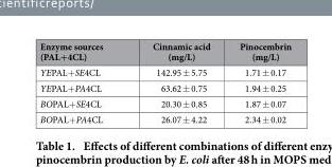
<table><thead><tr><td>Enzyme sources (PAL+4CL)</td><td>Cinnamic acid (mg/L)</td><td>Pinocembrin (mg/L)</td></tr></thead><tbody><tr><td>YEPAL+ SE4CL</td><td>142.95 ± 5.75</td><td>1.71 ± 0.17</td></tr><tr><td>YEPAL+ PA4CL</td><td>63.62 ± 0.75</td><td>1.94 ± 0.25</td></tr><tr><td>BOPAL+ SE4CL</td><td>20.30 ± 0.85</td><td>1.87 ± 0.07</td></tr><tr><td>BOPAL+ PA4CL</td><td>26.07 ± 4.22</td><td>2.34 ± 0.02</td></tr></tbody></table>